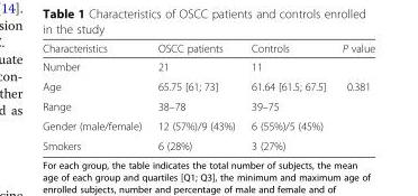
<table><thead><tr><td>Characteristics</td><td>OSCC patients</td><td>Controls</td><td>P value</td></tr></thead><tbody><tr><td>Number</td><td>21</td><td>11</td><td></td></tr><tr><td>Age</td><td>65.75 [61; 73]</td><td>61.64 [61.5; 67.5]</td><td>0.381</td></tr><tr><td>Range</td><td>38–78</td><td>39–75</td><td></td></tr><tr><td>Gender (male/female)</td><td>12 (57%)/9 (43%)</td><td>6 (55%)/5 (45%)</td><td></td></tr><tr><td>Smokers</td><td>6 (28%)</td><td>3 (27%)</td><td></td></tr></tbody></table>